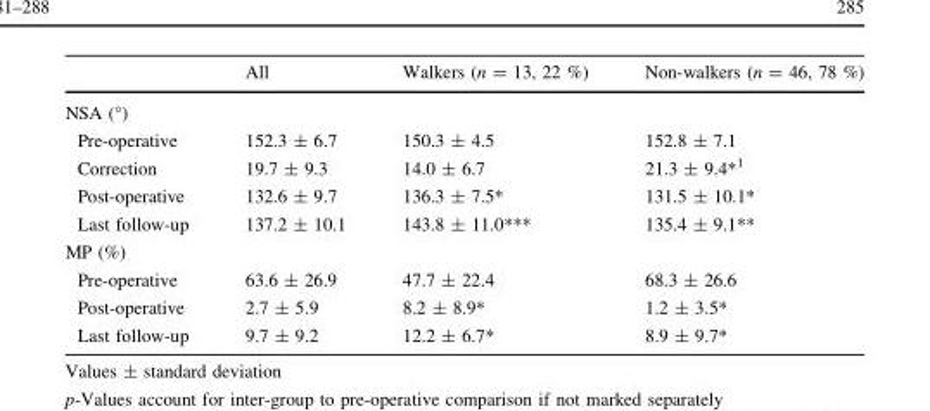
<table><thead><tr><td></td><td>All</td><td>Walkers (n = 13, 22 %)</td><td>Non-walkers (n = 46, 78 %)</td></tr></thead><tbody><tr><td colspan="4">NSA (°)</td></tr><tr><td>Pre-operative</td><td>152.3 ± 6.7</td><td>150.3 ± 4.5</td><td>152.8 ± 7.1</td></tr><tr><td>Correction</td><td>19.7 ± 9.3</td><td>14.0 ± 6.7</td><td>21.3 ± 9.4*<sup>1</sup></td></tr><tr><td>Post-operative</td><td>132.6 ± 9.7</td><td>136.3 ± 7.5*</td><td>131.5 ± 10.1*</td></tr><tr><td>Last follow-up</td><td>137.2 ± 10.1</td><td>143.8 ± 11.0***</td><td>135.4 ± 9.1**</td></tr><tr><td colspan="4">MP (%)</td></tr><tr><td>Pre-operative</td><td>63.6 ± 26.9</td><td>47.7 ± 22.4</td><td>68.3 ± 26.6</td></tr><tr><td>Post-operative</td><td>2.7 ± 5.9</td><td>8.2 ± 8.9*</td><td>1.2 ± 3.5*</td></tr><tr><td>Last follow-up</td><td>9.7 ± 9.2</td><td>12.2 ± 6.7*</td><td>8.9 ± 9.7*</td></tr></tbody></table>